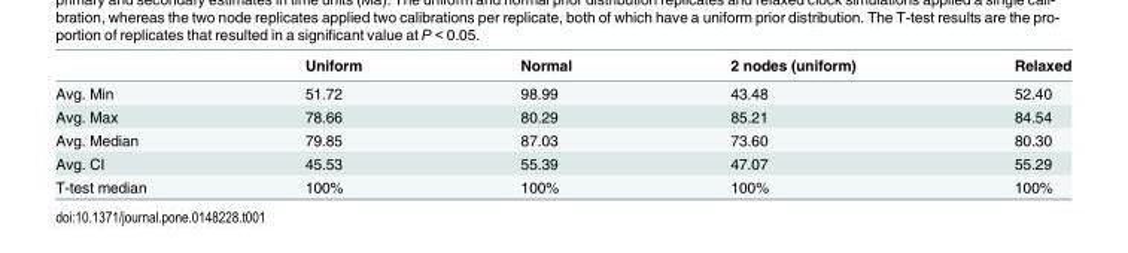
<table><thead><tr><td></td><td>Uniform</td><td>Normal</td><td>2 nodes (uniform)</td><td>Relaxed</td></tr></thead><tbody><tr><td>Avg. Min</td><td>51.72</td><td>98.99</td><td>43.48</td><td>52.40</td></tr><tr><td>Avg. Max</td><td>78.66</td><td>80.29</td><td>85.21</td><td>84.54</td></tr><tr><td>Avg. Median</td><td>79.85</td><td>87.03</td><td>73.60</td><td>80.30</td></tr><tr><td>Avg. CI</td><td>45.53</td><td>55.39</td><td>47.07</td><td>55.29</td></tr><tr><td>T-test median</td><td>100%</td><td>100%</td><td>100%</td><td>100%</td></tr></tbody></table>